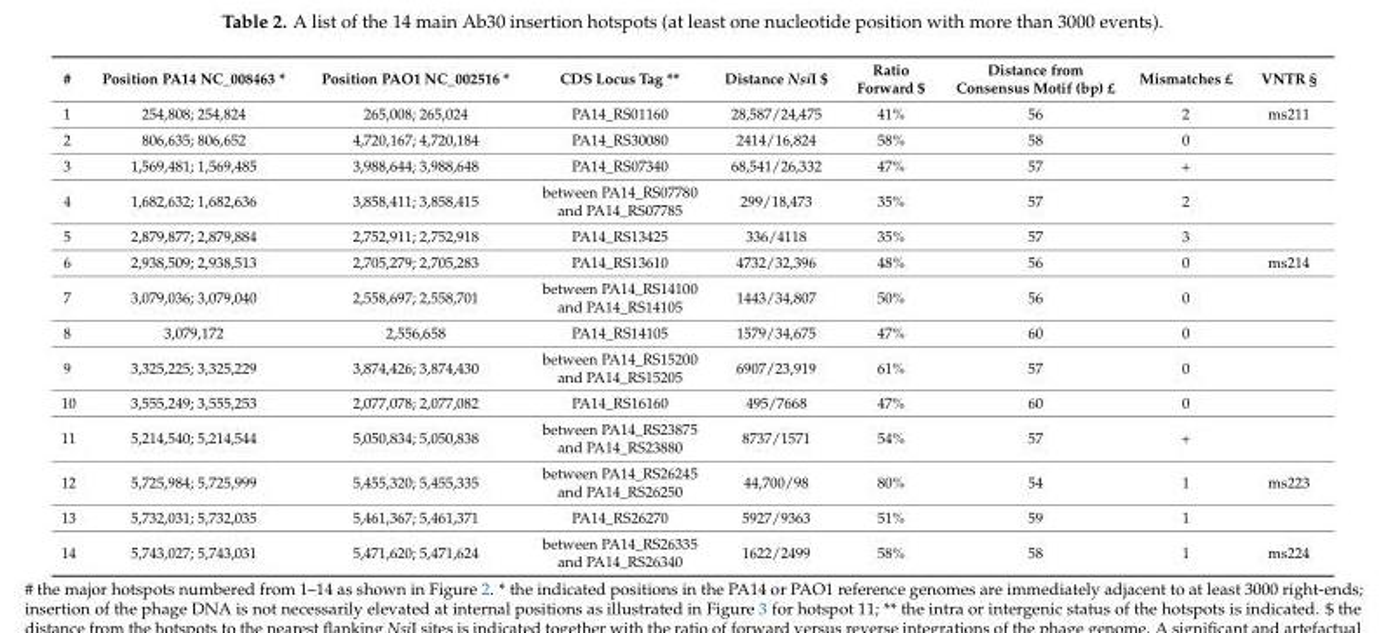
<table><thead><tr><td>#</td><td>Position PA14 NC_008463 *</td><td>Position PAO1 NC_002516 *</td><td>CDS Locus Tag **</td><td>Distance NsiI $</td><td>Ratio Forward $</td><td>Distance from Consensus Motif (bp) £</td><td>Mismatches £</td><td>VNTR §</td></tr></thead><tbody><tr><td>1</td><td>254,808; 254,824</td><td>265,008; 265,024</td><td>PA14_RS01160</td><td>28,587/24,475</td><td>41%</td><td>56</td><td>2</td><td>ms211</td></tr><tr><td>2</td><td>806,635; 806,652</td><td>4,720,167; 4,720,184</td><td>PA14_RS30080</td><td>2414/16,824</td><td>58%</td><td>58</td><td>0</td><td></td></tr><tr><td>3</td><td>1,569,481; 1,569,485</td><td>3,988,644; 3,988,648</td><td>PA14_RS07340</td><td>68,541/26,332</td><td>47%</td><td>57</td><td>+</td><td></td></tr><tr><td>4</td><td>1,682,632; 1,682,636</td><td>3,858,411; 3,858,415</td><td>between PA14_RS07780 and PA14_RS07785</td><td>299/18,473</td><td>35%</td><td>57</td><td>2</td><td></td></tr><tr><td>5</td><td>2,879,877; 2,879,884</td><td>2,752,911; 2,752,918</td><td>PA14_RS13425</td><td>336/4118</td><td>35%</td><td>57</td><td>3</td><td></td></tr><tr><td>6</td><td>2,938,509; 2,938,513</td><td>2,705,279; 2,705,283</td><td>PA14_RS13610</td><td>4732/32,396</td><td>48%</td><td>56</td><td>0</td><td>ms214</td></tr><tr><td>7</td><td>3,079,036; 3,079,040</td><td>2,558,697; 2,558,701</td><td>between PA14_RS14100 and PA14_RS14105</td><td>1443/34,807</td><td>50%</td><td>56</td><td>0</td><td></td></tr><tr><td>8</td><td>3,079,172</td><td>2,556,658</td><td>PA14_RS14105</td><td>1579/34,675</td><td>47%</td><td>60</td><td>0</td><td></td></tr><tr><td>9</td><td>3,325,225; 3,325,229</td><td>3,874,426; 3,874,430</td><td>between PA14_RS15200 and PA14_RS15205</td><td>6907/23,919</td><td>61%</td><td>57</td><td>0</td><td></td></tr><tr><td>10</td><td>3,555,249; 3,555,253</td><td>2,077,078; 2,077,082</td><td>PA14_RS16160</td><td>495/7668</td><td>47%</td><td>60</td><td>0</td><td></td></tr><tr><td>11</td><td>5,214,540; 5,214,544</td><td>5,050,834; 5,050,838</td><td>between PA14_RS23875 and PA14_RS23880</td><td>8737/1571</td><td>54%</td><td>57</td><td>+</td><td></td></tr><tr><td>12</td><td>5,725,984; 5,725,999</td><td>5,455,320; 5,455,335</td><td>between PA14_RS26245 and PA14_RS26250</td><td>44,700/98</td><td>80%</td><td>54</td><td>1</td><td>ms223</td></tr><tr><td>13</td><td>5,732,031; 5,732,035</td><td>5,461,367; 5,461,371</td><td>PA14_RS26270</td><td>5927/9363</td><td>51%</td><td>59</td><td>1</td><td></td></tr><tr><td>14</td><td>5,743,027; 5,743,031</td><td>5,471,620; 5,471,624</td><td>between PA14_RS26335 and PA14_RS26340</td><td>1622/2499</td><td>58%</td><td>58</td><td>1</td><td>ms224</td></tr></tbody></table>